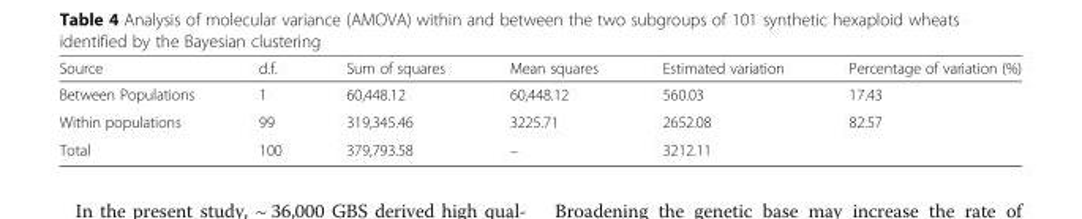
<table><thead><tr><td>Source</td><td>d.f.</td><td>Sum of squares</td><td>Mean squares</td><td>Estimated variation</td><td>Percentage of variation (%)</td></tr></thead><tbody><tr><td>Between Populations</td><td>1</td><td>60,448.12</td><td>60,448.12</td><td>560.03</td><td>17.43</td></tr><tr><td>Within populations</td><td>99</td><td>319,345.46</td><td>3225.71</td><td>2652.08</td><td>82.57</td></tr><tr><td>Total</td><td>100</td><td>379,793.58</td><td>–</td><td>3212.11</td><td></td></tr></tbody></table>